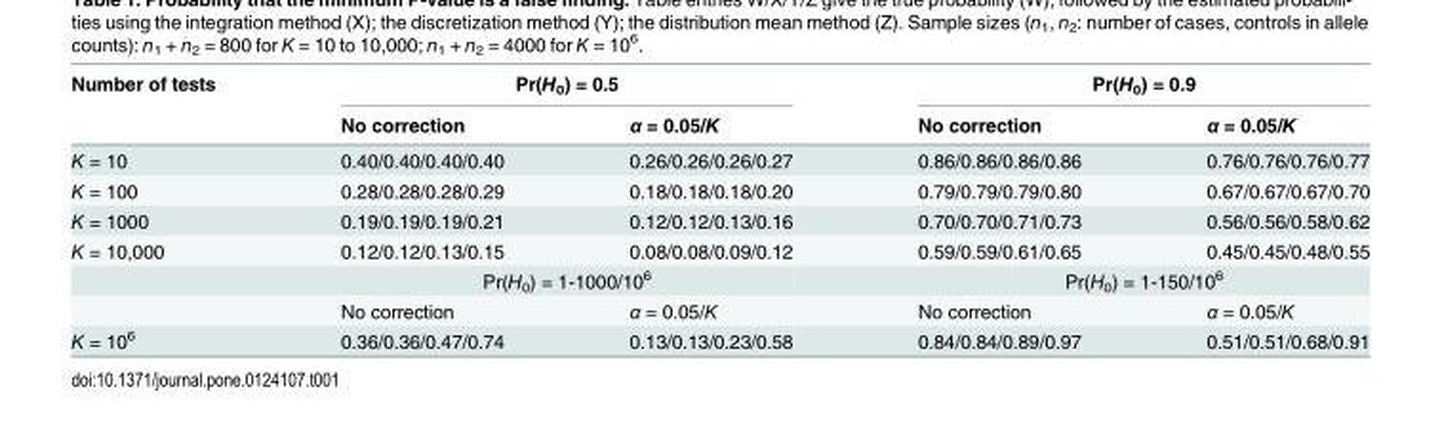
<table><thead><tr><td rowspan="2">Number of tests</td><td colspan="2">Pr(H<sub>0</sub>) = 0.5</td><td colspan="2">Pr(H<sub>0</sub>) = 0.9</td></tr><tr><td>No correction</td><td>α = 0.05/K</td><td>No correction</td><td>α = 0.05/K</td></tr></thead><tbody><tr><td>K = 10</td><td>0.40/0.40/0.40/0.40</td><td>0.26/0.26/0.26/0.27</td><td>0.86/0.86/0.86/0.86</td><td>0.76/0.76/0.76/0.77</td></tr><tr><td>K = 100</td><td>0.28/0.28/0.28/0.29</td><td>0.18/0.18/0.18/0.20</td><td>0.79/0.79/0.79/0.80</td><td>0.67/0.67/0.67/0.70</td></tr><tr><td>K = 1000</td><td>0.19/0.19/0.19/0.21</td><td>0.12/0.12/0.13/0.16</td><td>0.70/0.70/0.71/0.73</td><td>0.56/0.56/0.58/0.62</td></tr><tr><td rowspan="3">K = 10,000</td><td>0.12/0.12/0.13/0.15</td><td>0.08/0.08/0.09/0.12</td><td>0.59/0.59/0.61/0.65</td><td>0.45/0.45/0.48/0.55</td></tr><tr><td colspan="2">Pr(H<sub>0</sub>) = 1-1000/10<sup>6</sup></td><td colspan="2">Pr(H<sub>0</sub>) = 1-150/10<sup>6</sup></td></tr><tr><td>No correction</td><td>α = 0.05/K</td><td>No correction</td><td>α = 0.05/K</td></tr><tr><td>K = 10<sup>6</sup></td><td>0.36/0.36/0.47/0.74</td><td>0.13/0.13/0.23/0.58</td><td>0.84/0.84/0.89/0.97</td><td>0.51/0.51/0.68/0.91</td></tr></tbody></table>